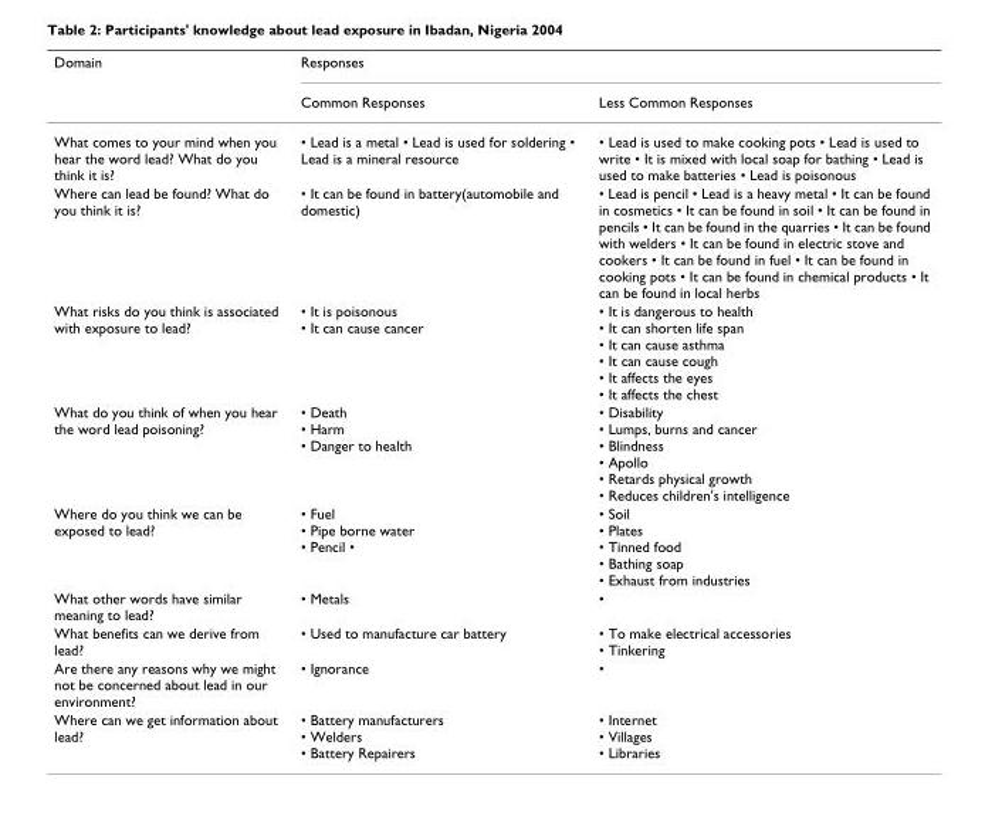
<table><thead><tr><td rowspan="2">Domain</td><td rowspan="2">Responses Common Responses</td><td rowspan="2">Less Common Responses</td></tr><tr></tr></thead><tbody><tr><td>What comes to your mind when you hear the word lead? What do you think it is?</td><td>• Lead is a metal • Lead is used for soldering • Lead is a mineral resource</td><td>• Lead is used to make cooking pots • Lead is used to write • It is mixed with local soap for bathing • Lead is used to make batteries • Lead is poisonous</td></tr><tr><td>Where can lead be found? What do you think it is?</td><td>• It can be found in battery(automobile and domestic)</td><td>• Lead is pencil • Lead is a heavy metal • It can be found in cosmetics • It can be found in soil • It can be found in pencils • It can be found in the quarries • It can be found with welders • It can be found in electric stove and cookers • It can be found in fuel • It can be found in cooking pots • It can be found in chemical products • It can be found in local herbs</td></tr><tr><td>What risks do you think is associated with exposure to lead?</td><td>• It is poisonous • It can cause cancer</td><td>• It is dangerous to health • It can shorten life span • It can cause asthma • It can cause cough • It affects the eyes • It affects the chest</td></tr><tr><td>What do you think of when you hear the word lead poisoning?</td><td>• Death • Harm • Danger to health</td><td>• Disability • Lumps, burns and cancer • Blindness • Apollo • Retards physical growth • Reduces children&#x27;s intelligence</td></tr><tr><td>Where do you think we can be exposed to lead?</td><td>• Fuel • Pipe borne water • Pencil •</td><td>• Soil • Plates • Tinned food • Bathing soap • Exhaust from industries</td></tr><tr><td>What other words have similar meaning to lead?</td><td>• Metals</td><td>•</td></tr><tr><td>What benefits can we derive from lead?</td><td>• Used to manufacture car battery</td><td>• To make electrical accessories • Tinkering</td></tr><tr><td>Are there any reasons why we might not be concerned about lead in our environment?</td><td>• Ignorance</td><td>•</td></tr><tr><td>Where can we get information about lead?</td><td>• Battery manufacturers • Welders • Battery Repairers</td><td>• Internet • Villages • Libraries</td></tr></tbody></table>